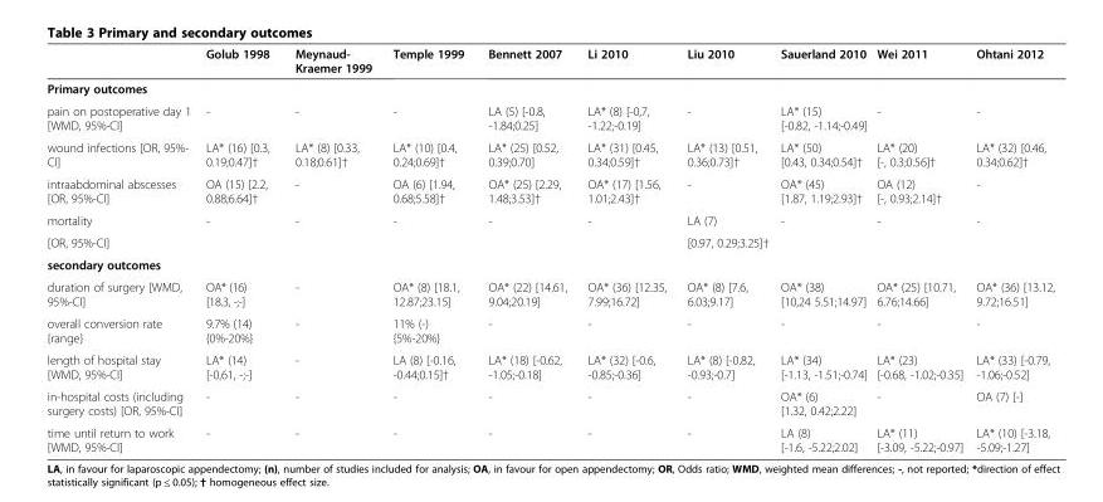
<table><thead><tr><td></td><td>Golub 1998</td><td>Meynaud- Kraemer 1999</td><td>Temple 1999</td><td>Bennett 2007</td><td>Li 2010</td><td>Liu 2010</td><td>Sauerland 2010</td><td>Wei 2011</td><td>Ohtani 2012</td></tr></thead><tbody><tr><td colspan="10">Primary outcomes</td></tr><tr><td>pain on postoperative day 1 [WMD, 95%-CI]</td><td>-</td><td>-</td><td>-</td><td>LA (5) [-0.8, -1.84;0.25]</td><td>LA* (8) [-0,7, -1.22;-0.19]</td><td>-</td><td>LA* (15) [-0.82, -1.14;-0.49]</td><td>-</td><td>-</td></tr><tr><td>wound infections [OR, 95%- CI]</td><td>LA* (16) [0.3, 0.19;0.47]†</td><td>LA* (8) [0.33, 0.18;0.61]†</td><td>LA* (10) [0.4, 0.24;0.69]†</td><td>LA* (25) [0.52, 0.39;0.70]</td><td>LA* (31) [0.45, 0.34;0.59]†</td><td>LA* (13) [0.51, 0.36;0.73]†</td><td>LA* (50) [0.43, 0.34;0.54]†</td><td>LA* (20) [-, 0.3;0.56]†</td><td>LA* (32) [0.46, 0.34;0.62]†</td></tr><tr><td>intraabdominal abscesses [OR, 95%-CI]</td><td>OA (15) [2.2, 0.88;6.64]†</td><td>-</td><td>OA (6) [1.94, 0.68;5.58]†</td><td>OA* (25) [2.29, 1.48;3.53]†</td><td>OA* (17) [1.56, 1.01;2.43]†</td><td>-</td><td>OA* (45) [1.87, 1.19;2.93]†</td><td>OA (12) [-, 0.93;2.14]†</td><td>-</td></tr><tr><td>mortality</td><td>-</td><td>-</td><td>-</td><td>-</td><td>-</td><td>LA (7)</td><td>-</td><td>-</td><td>-</td></tr><tr><td>[OR, 95%-CI]</td><td></td><td></td><td></td><td></td><td></td><td>[0.97, 0.29;3.25]†</td><td></td><td></td><td></td></tr><tr><td colspan="10">secondary outcomes</td></tr><tr><td>duration of surgery [WMD, 95%-CI]</td><td>OA* (16) [18.3, -;-]</td><td>-</td><td>OA* (8) [18.1, 12.87;23.15]</td><td>OA* (22) [14.61, 9.04;20.19]</td><td>OA* (36) [12.35, 7.99;16.72]</td><td>OA* (8) [7.6, 6.03;9.17]</td><td>OA* (38) [10,24 5.51;14.97]</td><td>OA* (25) [10.71, 6.76;14.66]</td><td>OA* (36) [13.12, 9.72;16.51]</td></tr><tr><td>overall conversion rate {range}</td><td>9.7% (14) {0%-20%}</td><td>-</td><td>11% (-) {5%-20%}</td><td>-</td><td>-</td><td>-</td><td>-</td><td>-</td><td>-</td></tr><tr><td>length of hospital stay [WMD, 95%-CI]</td><td>LA* (14) [-0,61, -;-]</td><td>-</td><td>LA (8) [-0.16, -0.44;0.15]†</td><td>LA* (18) [-0.62, -1.05;-0.18]</td><td>LA* (32) [-0.6, -0.85;-0.36]</td><td>LA* (8) [-0.82, -0.93;-0.7]</td><td>LA* (34) [-1.13, -1.51;-0.74]</td><td>LA* (23) [-0.68, -1.02;-0.35]</td><td>LA* (33) [-0.79, -1.06;-0.52]</td></tr><tr><td>in-hospital costs (including surgery costs) [OR, 95%-CI]</td><td>-</td><td>-</td><td>-</td><td>-</td><td>-</td><td>-</td><td>OA* (6) [1.32, 0.42;2.22]</td><td>-</td><td>OA (7) [-]</td></tr><tr><td>time until return to work [WMD, 95%-CI]</td><td>-</td><td>-</td><td>-</td><td>-</td><td>-</td><td>-</td><td>LA (8) [-1.6, -5.22;2.02]</td><td>LA* (11) [-3.09, -5.22;-0.97]</td><td>LA* (10) [-3.18, -5.09;-1.27]</td></tr></tbody></table>